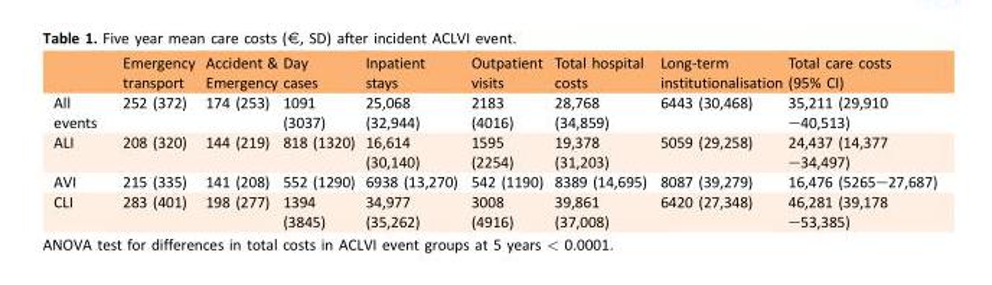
<table><thead><tr><td></td><td>Emergency transport</td><td>Accident &amp; Emergency</td><td>Day cases</td><td>Inpatient stays</td><td>Outpatient visits</td><td>Total hospital costs</td><td>Long-term institutionalisation</td><td>Total care costs (95% CI)</td></tr></thead><tbody><tr><td>All events</td><td>252 (372)</td><td>174 (253)</td><td>1091 (3037)</td><td>25,068 (32,944)</td><td>2183 (4016)</td><td>28,768 (34,859)</td><td>6443 (30,468)</td><td>35,211 (29,910 –40,513)</td></tr><tr><td>ALI</td><td>208 (320)</td><td>144 (219)</td><td>818 (1320)</td><td>16,614 (30,140)</td><td>1595 (2254)</td><td>19,378 (31,203)</td><td>5059 (29,258)</td><td>24,437 (14,377 –34,497)</td></tr><tr><td>AVI</td><td>215 (335)</td><td>141 (208)</td><td>552 (1290)</td><td>6938 (13,270)</td><td>542 (1190)</td><td>8389 (14,695)</td><td>8087 (39,279)</td><td>16,476 (5265–27,687)</td></tr><tr><td>CLI</td><td>283 (401)</td><td>198 (277)</td><td>1394 (3845)</td><td>34,977 (35,262)</td><td>3008 (4916)</td><td>39,861 (37,008)</td><td>6420 (27,348)</td><td>46,281 (39,178 –53,385)</td></tr></tbody></table>